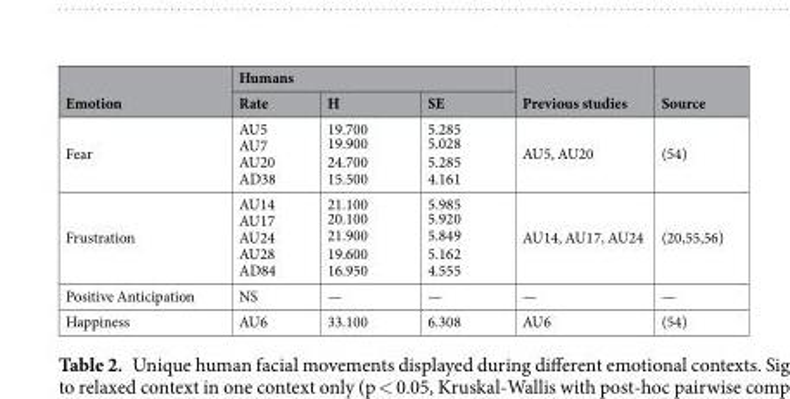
<table><thead><tr><td rowspan="2">Emotion</td><td colspan="3">Humans</td><td rowspan="2">Previous studies</td><td rowspan="2">Source</td></tr><tr><td>Rate</td><td>H</td><td>SE</td></tr></thead><tbody><tr><td>Fear</td><td>AU5 AU7 AU20 AD38</td><td>19.700 19.900 24.700 15.500</td><td>5.285 5.028 5.285 4.161</td><td>AU5, AU20</td><td>(54)</td></tr><tr><td>Frustration</td><td>AU14 AU17 AU24 AU28 AD84</td><td>21.100 20.100 21.900 19.600 16.950</td><td>5.985 5.920 5.849 5.162 4.555</td><td>AU14, AU17, AU24</td><td>(20,55,56)</td></tr><tr><td>Positive Anticipation</td><td>NS</td><td>—</td><td>—</td><td>—</td><td>—</td></tr><tr><td>Happiness</td><td>AU6</td><td>33.100</td><td>6.308</td><td>AU6</td><td>(54)</td></tr></tbody></table>